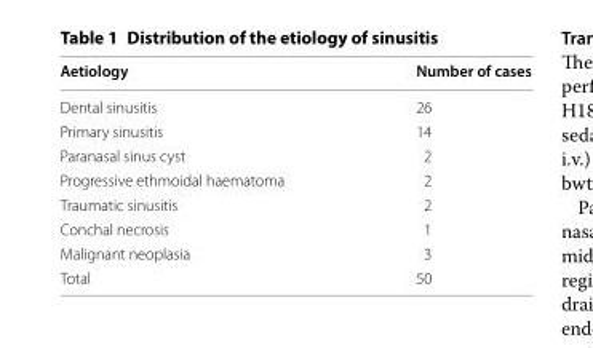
<table><thead><tr><td>Aetiology</td><td>Number of cases</td></tr></thead><tbody><tr><td>Dental sinusitis</td><td>26</td></tr><tr><td>Primary sinusitis</td><td>14</td></tr><tr><td>Paranasal sinus cyst</td><td>2</td></tr><tr><td>Progressive ethmoidal haematoma</td><td>2</td></tr><tr><td>Traumatic sinusitis</td><td>2</td></tr><tr><td>Conchal necrosis</td><td>1</td></tr><tr><td>Malignant neoplasia</td><td>3</td></tr><tr><td>Total</td><td>50</td></tr></tbody></table>